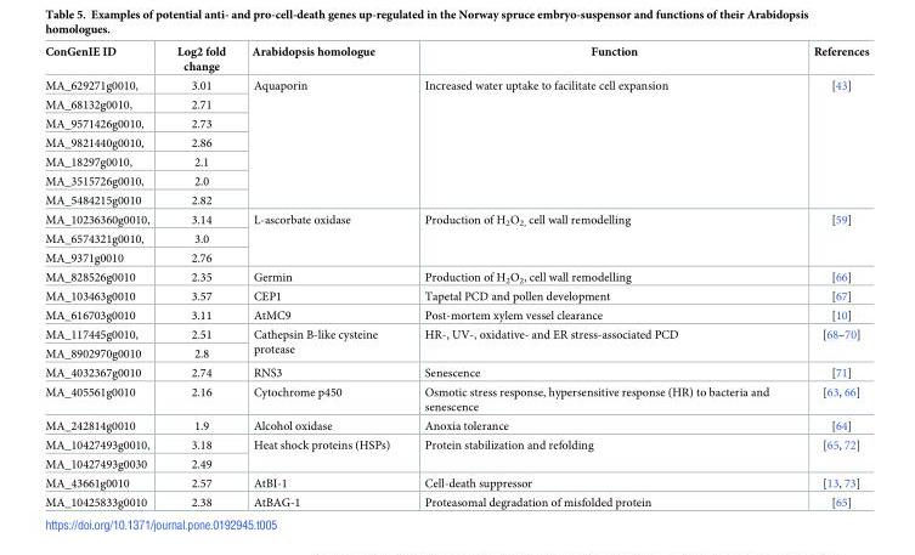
<table><thead><tr><td>ConGenIE ID</td><td>Log2 fold change</td><td>Arabidopsis homologue</td><td>Function</td><td>References</td></tr></thead><tbody><tr><td>MA_629271g0010,</td><td>3.01</td><td rowspan="7">Aquaporin</td><td rowspan="7">Increased water uptake to facilitate cell expansion</td><td rowspan="7">[43]</td></tr><tr><td>MA_68132g0010,</td><td>2.71</td></tr><tr><td>MA_9571426g0010,</td><td>2.73</td></tr><tr><td>MA_9821440g0010,</td><td>2.86</td></tr><tr><td>MA_18297g0010,</td><td>2.1</td></tr><tr><td>MA_3515726g0010,</td><td>2.0</td></tr><tr><td>MA_5484215g0010</td><td>2.82</td></tr><tr><td>MA_10236360g0010,</td><td>3.14</td><td rowspan="3">L-ascorbate oxidase</td><td rowspan="3">Production of H<sub>2</sub>O<sub>2,</sub> cell wall remodelling</td><td rowspan="3">[59]</td></tr><tr><td>MA_6574321g0010,</td><td>3.0</td></tr><tr><td>MA_9371g0010</td><td>2.76</td></tr><tr><td>MA_828526g0010</td><td>2.35</td><td>Germin</td><td>Production of H<sub>2</sub>O<sub>2</sub>, cell wall remodelling</td><td>[66]</td></tr><tr><td>MA_103463g0010</td><td>3.57</td><td>CEP1</td><td>Tapetal PCD and pollen development</td><td>[67]</td></tr><tr><td>MA_616703g0010</td><td>3.11</td><td>AtMC9</td><td>Post-mortem xylem vessel clearance</td><td>[10]</td></tr><tr><td>MA_117445g0010,</td><td>2.51</td><td rowspan="2">Cathepsin B-like cysteine protease</td><td rowspan="2">HR-, UV-, oxidative- and ER stress-associated PCD</td><td rowspan="2">[68–70]</td></tr><tr><td>MA_8902970g0010</td><td>2.8</td></tr><tr><td>MA_4032367g0010</td><td>2.74</td><td>RNS3</td><td>Senescence</td><td>[71]</td></tr><tr><td>MA_405561g0010</td><td>2.16</td><td>Cytochrome p450</td><td>Osmotic stress response, hypersensitive response (HR) to bacteria and senescence</td><td>[63, 66]</td></tr><tr><td>MA_242814g0010</td><td>1.9</td><td>Alcohol oxidase</td><td>Anoxia tolerance</td><td>[64]</td></tr><tr><td>MA_10427493g0010,</td><td>3.18</td><td rowspan="2">Heat shock proteins (HSPs)</td><td rowspan="2">Protein stabilization and refolding</td><td rowspan="2">[65, 72]</td></tr><tr><td>MA_10427493g0030</td><td>2.49</td></tr><tr><td>MA_43661g0010</td><td>2.57</td><td>AtBI-1</td><td>Cell-death suppressor</td><td>[13, 73]</td></tr><tr><td>MA_10425833g0010</td><td>2.38</td><td>AtBAG-1</td><td>Proteasomal degradation of misfolded protein</td><td>[65]</td></tr></tbody></table>